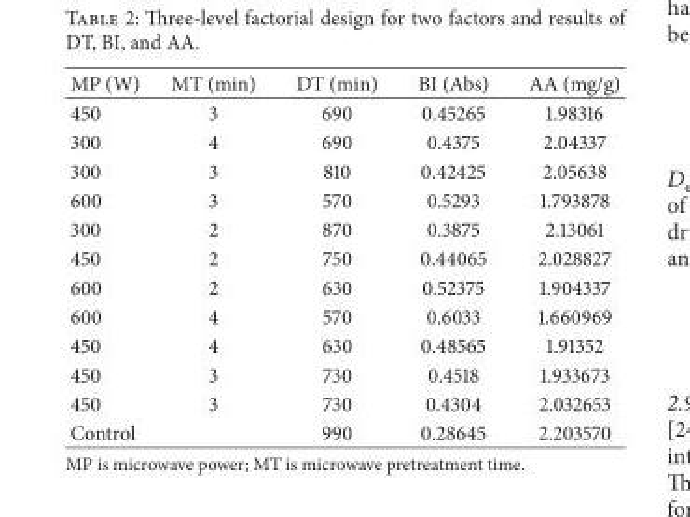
<table><thead><tr><td>MP (W)</td><td>MT (min)</td><td>DT (min)</td><td>BI (Abs)</td><td>AA (mg/g)</td></tr></thead><tbody><tr><td>450</td><td>3</td><td>690</td><td>0.45265</td><td>1.98316</td></tr><tr><td>300</td><td>4</td><td>690</td><td>0.4375</td><td>2.04337</td></tr><tr><td>300</td><td>3</td><td>810</td><td>0.42425</td><td>2.05638</td></tr><tr><td>600</td><td>3</td><td>570</td><td>0.5293</td><td>1.793878</td></tr><tr><td>300</td><td>2</td><td>870</td><td>0.3875</td><td>2.13061</td></tr><tr><td>450</td><td>2</td><td>750</td><td>0.44065</td><td>2.028827</td></tr><tr><td>600</td><td>2</td><td>630</td><td>0.52375</td><td>1.904337</td></tr><tr><td>600</td><td>4</td><td>570</td><td>0.6033</td><td>1.660969</td></tr><tr><td>450</td><td>4</td><td>630</td><td>0.48565</td><td>1.91352</td></tr><tr><td>450</td><td>3</td><td>730</td><td>0.4518</td><td>1.933673</td></tr><tr><td>450</td><td>3</td><td>730</td><td>0.4304</td><td>2.032653</td></tr><tr><td>Control</td><td></td><td>990</td><td>0.28645</td><td>2.203570</td></tr></tbody></table>